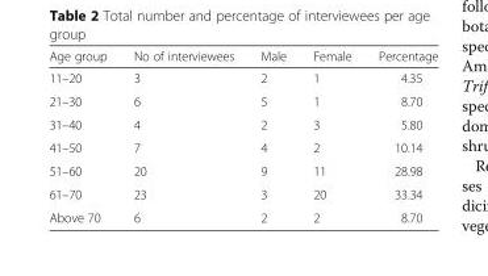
<table><thead><tr><td>Age group</td><td>No of interviewees</td><td>Male</td><td>Female</td><td>Percentage</td></tr></thead><tbody><tr><td>11–20</td><td>3</td><td>2</td><td>1</td><td>4.35</td></tr><tr><td>21–30</td><td>6</td><td>5</td><td>1</td><td>8.70</td></tr><tr><td>31–40</td><td>4</td><td>2</td><td>3</td><td>5.80</td></tr><tr><td>41–50</td><td>7</td><td>4</td><td>2</td><td>10.14</td></tr><tr><td>51–60</td><td>20</td><td>9</td><td>11</td><td>28.98</td></tr><tr><td>61–70</td><td>23</td><td>3</td><td>20</td><td>33.34</td></tr><tr><td>Above 70</td><td>6</td><td>2</td><td>2</td><td>8.70</td></tr></tbody></table>